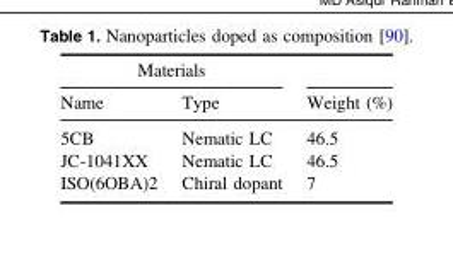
<table><thead><tr><td colspan="2">Materials</td><td rowspan="2">Weight (%)</td></tr><tr><td>Name</td><td>Type</td></tr></thead><tbody><tr><td>5CB</td><td>Nematic LC</td><td>46.5</td></tr><tr><td>JC-1041XX</td><td>Nematic LC</td><td>46.5</td></tr><tr><td>ISO(6OBA)2</td><td>Chiral dopant</td><td>7</td></tr></tbody></table>